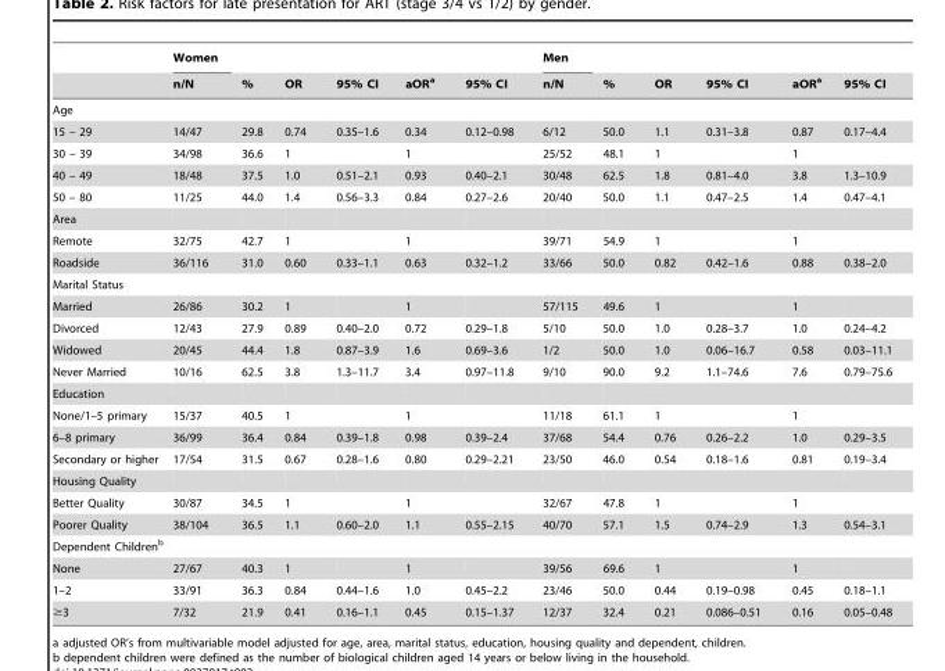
<table><thead><tr><td rowspan="2"></td><td rowspan="2">Women n/N</td><td rowspan="2">%</td><td rowspan="2">OR</td><td rowspan="2">95% CI</td><td rowspan="2">aOR<sup>a</sup></td><td rowspan="2">95% CI</td><td rowspan="2">Men n/N</td><td rowspan="2">%</td><td rowspan="2">OR</td><td rowspan="2">95% CI</td><td rowspan="2">aOR<sup>a</sup></td><td rowspan="2">95% CI</td></tr><tr></tr></thead><tbody><tr><td colspan="13">Age</td></tr><tr><td>15 – 29</td><td>14/47</td><td>29.8</td><td>0.74</td><td>0.35–1.6</td><td>0.34</td><td>0.12–0.98</td><td>6/12</td><td>50.0</td><td>1.1</td><td>0.31–3.8</td><td>0.87</td><td>0.17–4.4</td></tr><tr><td>30 – 39</td><td>34/98</td><td>36.6</td><td>1</td><td></td><td>1</td><td></td><td>25/52</td><td>48.1</td><td>1</td><td></td><td>1</td><td></td></tr><tr><td>40 – 49</td><td>18/48</td><td>37.5</td><td>1.0</td><td>0.51–2.1</td><td>0.93</td><td>0.40–2.1</td><td>30/48</td><td>62.5</td><td>1.8</td><td>0.81–4.0</td><td>3.8</td><td>1.3–10.9</td></tr><tr><td>50 – 80</td><td>11/25</td><td>44.0</td><td>1.4</td><td>0.56–3.3</td><td>0.84</td><td>0.27–2.6</td><td>20/40</td><td>50.0</td><td>1.1</td><td>0.47–2.5</td><td>1.4</td><td>0.47–4.1</td></tr><tr><td colspan="13">Area</td></tr><tr><td>Remote</td><td>32/75</td><td>42.7</td><td>1</td><td></td><td>1</td><td></td><td>39/71</td><td>54.9</td><td>1</td><td></td><td>1</td><td></td></tr><tr><td>Roadside</td><td>36/116</td><td>31.0</td><td>0.60</td><td>0.33–1.1</td><td>0.63</td><td>0.32–1.2</td><td>33/66</td><td>50.0</td><td>0.82</td><td>0.42–1.6</td><td>0.88</td><td>0.38–2.0</td></tr><tr><td colspan="13">Marital Status</td></tr><tr><td>Married</td><td>26/86</td><td>30.2</td><td>1</td><td></td><td>1</td><td></td><td>57/115</td><td>49.6</td><td>1</td><td></td><td>1</td><td></td></tr><tr><td>Divorced</td><td>12/43</td><td>27.9</td><td>0.89</td><td>0.40–2.0</td><td>0.72</td><td>0.29–1.8</td><td>5/10</td><td>50.0</td><td>1.0</td><td>0.28–3.7</td><td>1.0</td><td>0.24–4.2</td></tr><tr><td>Widowed</td><td>20/45</td><td>44.4</td><td>1.8</td><td>0.87–3.9</td><td>1.6</td><td>0.69–3.6</td><td>1/2</td><td>50.0</td><td>1.0</td><td>0.06–16.7</td><td>0.58</td><td>0.03–11.1</td></tr><tr><td>Never Married</td><td>10/16</td><td>62.5</td><td>3.8</td><td>1.3–11.7</td><td>3.4</td><td>0.97–11.8</td><td>9/10</td><td>90.0</td><td>9.2</td><td>1.1–74.6</td><td>7.6</td><td>0.79–75.6</td></tr><tr><td colspan="13">Education</td></tr><tr><td>None/1–5 primary</td><td>15/37</td><td>40.5</td><td>1</td><td></td><td>1</td><td></td><td>11/18</td><td>61.1</td><td>1</td><td></td><td>1</td><td></td></tr><tr><td>6–8 primary</td><td>36/99</td><td>36.4</td><td>0.84</td><td>0.39–1.8</td><td>0.98</td><td>0.39–2.4</td><td>37/68</td><td>54.4</td><td>0.76</td><td>0.26–2.2</td><td>1.0</td><td>0.29–3.5</td></tr><tr><td>Secondary or higher</td><td>17/54</td><td>31.5</td><td>0.67</td><td>0.28–1.6</td><td>0.80</td><td>0.29–2.21</td><td>23/50</td><td>46.0</td><td>0.54</td><td>0.18–1.6</td><td>0.81</td><td>0.19–3.4</td></tr><tr><td colspan="13">Housing Quality</td></tr><tr><td>Better Quality</td><td>30/87</td><td>34.5</td><td>1</td><td></td><td>1</td><td></td><td>32/67</td><td>47.8</td><td>1</td><td></td><td>1</td><td></td></tr><tr><td>Poorer Quality</td><td>38/104</td><td>36.5</td><td>1.1</td><td>0.60–2.0</td><td>1.1</td><td>0.55–2.15</td><td>40/70</td><td>57.1</td><td>1.5</td><td>0.74–2.9</td><td>1.3</td><td>0.54–3.1</td></tr><tr><td colspan="13">Dependent Children<sup>b</sup></td></tr><tr><td>None</td><td>27/67</td><td>40.3</td><td>1</td><td></td><td>1</td><td></td><td>39/56</td><td>69.6</td><td>1</td><td></td><td>1</td><td></td></tr><tr><td>1–2</td><td>33/91</td><td>36.3</td><td>0.84</td><td>0.44–1.6</td><td>1.0</td><td>0.45–2.2</td><td>23/46</td><td>50.0</td><td>0.44</td><td>0.19–0.98</td><td>0.45</td><td>0.18–1.1</td></tr><tr><td>≥3</td><td>7/32</td><td>21.9</td><td>0.41</td><td>0.16–1.1</td><td>0.45</td><td>0.15–1.37</td><td>12/37</td><td>32.4</td><td>0.21</td><td>0.086–0.51</td><td>0.16</td><td>0.05–0.48</td></tr></tbody></table>